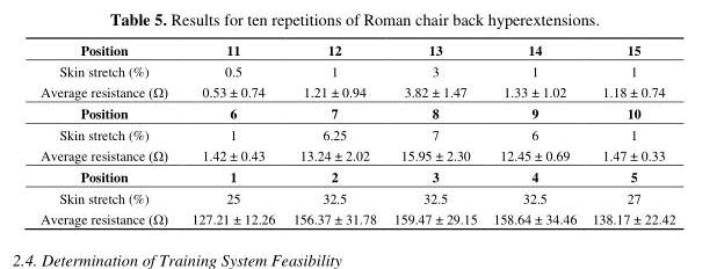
<table><thead><tr><td>Position</td><td>11</td><td>12</td><td>13</td><td>14</td><td>15</td></tr></thead><tbody><tr><td>Skin stretch (%)</td><td>0.5</td><td>1</td><td>3</td><td>1</td><td>1</td></tr><tr><td>Average resistance (Ω)</td><td>0.53 ± 0.74</td><td>1.21 ± 0.94</td><td>3.82 ± 1.47</td><td>1.33 ± 1.02</td><td>1.18 ± 0.74</td></tr><tr><td>Position</td><td>6</td><td>7</td><td>8</td><td>9</td><td>10</td></tr><tr><td>Skin stretch (%)</td><td>1</td><td>6.25</td><td>7</td><td>6</td><td>1</td></tr><tr><td>Average resistance (Ω)</td><td>1.42 ± 0.43</td><td>13.24 ± 2.02</td><td>15.95 ± 2.30</td><td>12.45 ± 0.69</td><td>1.47 ± 0.33</td></tr><tr><td>Position</td><td>1</td><td>2</td><td>3</td><td>4</td><td>5</td></tr><tr><td>Skin stretch (%)</td><td>25</td><td>32.5</td><td>32.5</td><td>32.5</td><td>27</td></tr><tr><td>Average resistance (Ω)</td><td>127.21 ± 12.26</td><td>156.37 ± 31.78</td><td>159.47 ± 29.15</td><td>158.64 ± 34.46</td><td>138.17 ± 22.42</td></tr></tbody></table>